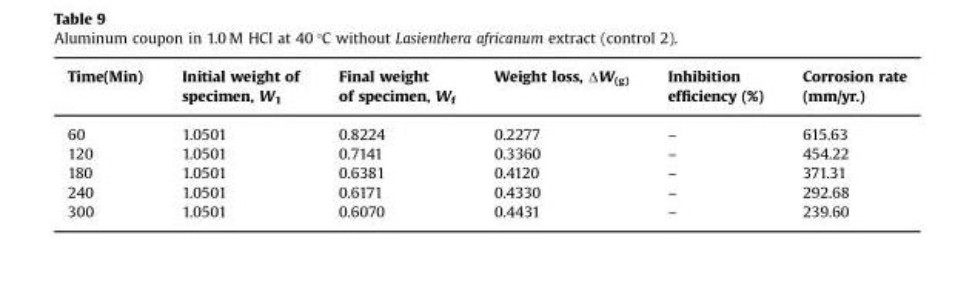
<table><thead><tr><td>Time(Min)</td><td>Initial weight of specimen, W<sub>1</sub></td><td>Final weight of specimen, W<sub>f</sub></td><td>Weight loss, ΔW(g)</td><td>Inhibition efficiency (%)</td><td>Corrosion rate (mm/yr.)</td></tr></thead><tbody><tr><td>60</td><td>1.0501</td><td>0.8224</td><td>0.2277</td><td>–</td><td>615.63</td></tr><tr><td>120</td><td>1.0501</td><td>0.7141</td><td>0.3360</td><td>–</td><td>454.22</td></tr><tr><td>180</td><td>1.0501</td><td>0.6381</td><td>0.4120</td><td>–</td><td>371.31</td></tr><tr><td>240</td><td>1.0501</td><td>0.6171</td><td>0.4330</td><td>–</td><td>292.68</td></tr><tr><td>300</td><td>1.0501</td><td>0.6070</td><td>0.4431</td><td>–</td><td>239.60</td></tr></tbody></table>